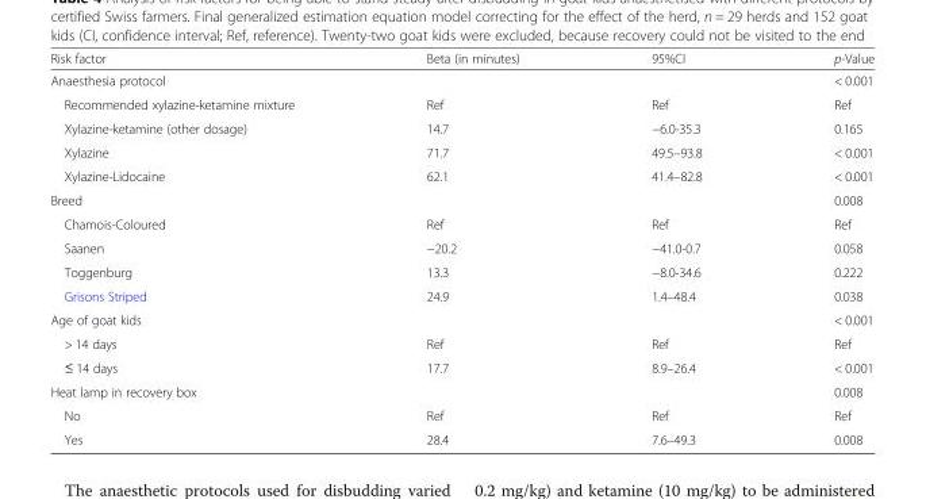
<table><thead><tr><td>Risk factor</td><td>Beta (in minutes)</td><td>95%CI</td><td>p-Value</td></tr></thead><tbody><tr><td colspan="3">Anaesthesia protocol</td><td>&lt; 0.001</td></tr><tr><td>Recommended xylazine-ketamine mixture</td><td>Ref</td><td>Ref</td><td>Ref</td></tr><tr><td>Xylazine-ketamine (other dosage)</td><td>14.7</td><td>−6.0-35.3</td><td>0.165</td></tr><tr><td>Xylazine</td><td>71.7</td><td>49.5–93.8</td><td>&lt; 0.001</td></tr><tr><td>Xylazine-Lidocaine</td><td>62.1</td><td>41.4–82.8</td><td>&lt; 0.001</td></tr><tr><td colspan="3">Breed</td><td>0.008</td></tr><tr><td>Chamois-Coloured</td><td>Ref</td><td>Ref</td><td>Ref</td></tr><tr><td>Saanen</td><td>−20.2</td><td>−41.0-0.7</td><td>0.058</td></tr><tr><td>Toggenburg</td><td>13.3</td><td>−8.0-34.6</td><td>0.222</td></tr><tr><td>Grisons Striped</td><td>24.9</td><td>1.4–48.4</td><td>0.038</td></tr><tr><td>Age of goat kids</td><td></td><td></td><td>&lt; 0.001</td></tr><tr><td>&gt; 14 days</td><td>Ref</td><td>Ref</td><td>Ref</td></tr><tr><td>≤ 14 days</td><td>17.7</td><td>8.9–26.4</td><td>&lt; 0.001</td></tr><tr><td colspan="3">Heat lamp in recovery box</td><td>0.008</td></tr><tr><td>No</td><td>Ref</td><td>Ref</td><td>Ref</td></tr><tr><td>Yes</td><td>28.4</td><td>7.6–49.3</td><td>0.008</td></tr></tbody></table>